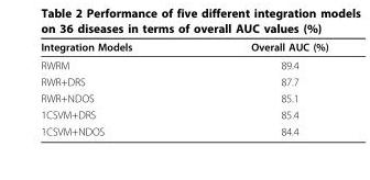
<table><thead><tr><td>Integration Models</td><td>Overall AUC (%)</td></tr></thead><tbody><tr><td>RWRM</td><td>89.4</td></tr><tr><td>RWR+DRS</td><td>87.7</td></tr><tr><td>RWR+NDOS</td><td>85.1</td></tr><tr><td>1CSVM+DRS</td><td>85.4</td></tr><tr><td>1CSVM+NDOS</td><td>84.4</td></tr></tbody></table>